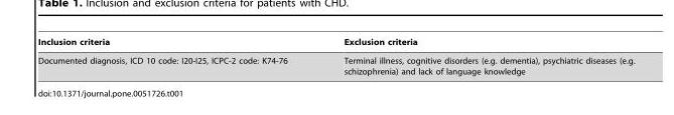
<table><thead><tr><td>Inclusion criteria</td><td>Exclusion criteria</td></tr></thead><tbody><tr><td>Documented diagnosis, ICD 10 code: I20-I25, ICPC-2 code: K74-76</td><td>Terminal illness, cognitive disorders (e.g. dementia), psychiatric diseases (e.g. schizophrenia) and lack of language knowledge</td></tr></tbody></table>